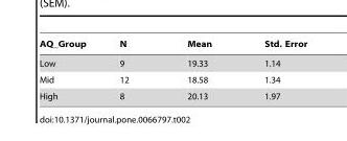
<table><thead><tr><td>AQ_Group</td><td>N</td><td>Mean</td><td>Std. Error</td></tr></thead><tbody><tr><td>Low</td><td>9</td><td>19.33</td><td>1.14</td></tr><tr><td>Mid</td><td>12</td><td>18.58</td><td>1.34</td></tr><tr><td>High</td><td>8</td><td>20.13</td><td>1.97</td></tr></tbody></table>